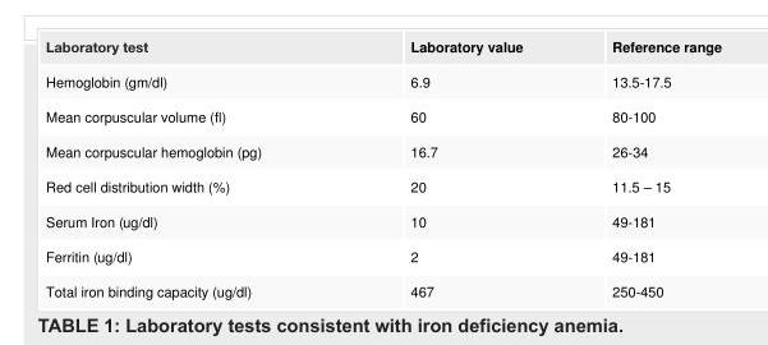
<table><tbody><tr><td>Laboratory test</td><td>Laboratory value</td><td>Reference range</td></tr><tr><td>Hemoglobin (gm/dl)</td><td>6.9</td><td>13.5-17.5</td></tr><tr><td>Mean corpuscular volume (fl)</td><td>60</td><td>80-100</td></tr><tr><td>Mean corpuscular hemoglobin (pg)</td><td>16.7</td><td>26-34</td></tr><tr><td>Red cell distribution width (%)</td><td>20</td><td>11.5 – 15</td></tr><tr><td>Serum Iron (ug/dl)</td><td>10</td><td>49-181</td></tr><tr><td>Ferritin (ug/dl)</td><td>2</td><td>49-181</td></tr><tr><td>Total iron binding capacity (ug/dl)</td><td>467</td><td>250-450</td></tr></tbody></table>